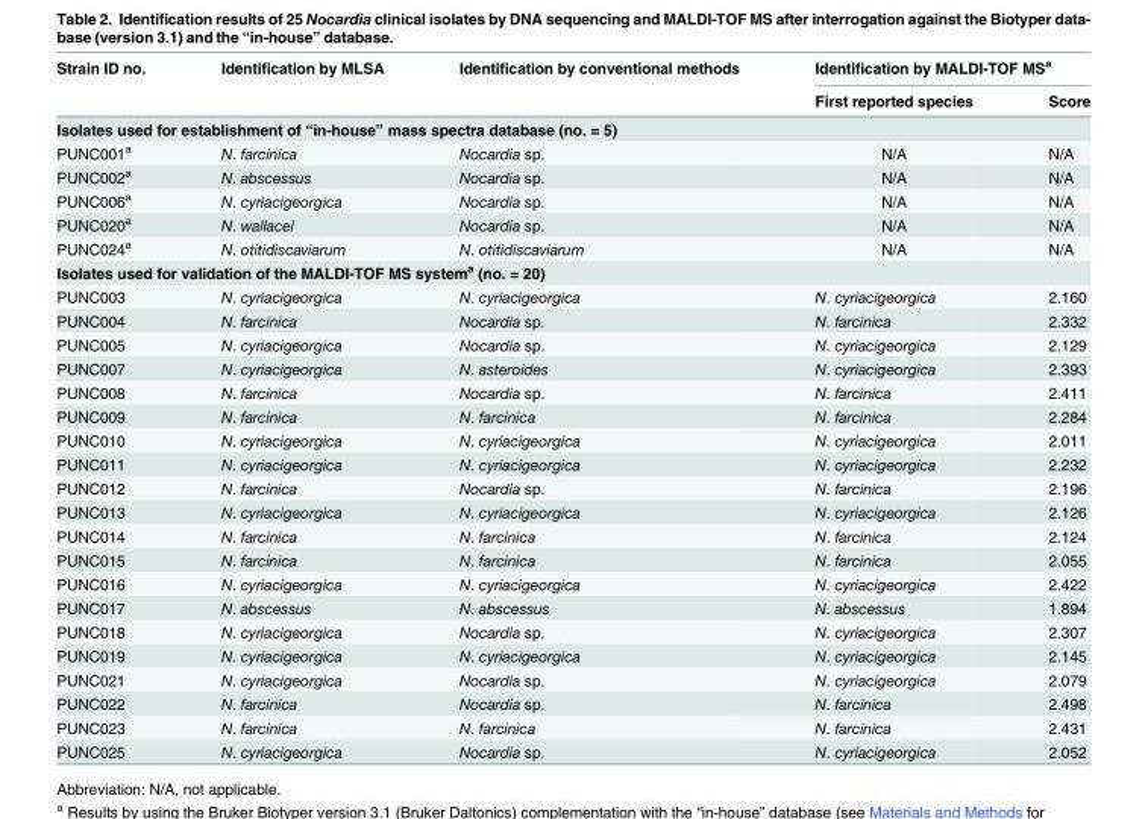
<table><thead><tr><td rowspan="2">Strain ID no.</td><td rowspan="2">Identification by MLSA</td><td rowspan="2">Identification by conventional methods</td><td colspan="2">Identification by MALDI-TOF MS<sup>a</sup></td></tr><tr><td>First reported species</td><td>Score</td></tr></thead><tbody><tr><td colspan="5">Isolates used for establishment of “in-house” mass spectra database (no. = 5)</td></tr><tr><td>PUNC001<sup>a</sup></td><td>N. farcinica</td><td>Nocardia sp.</td><td>N/A</td><td>N/A</td></tr><tr><td>PUNC002<sup>a</sup></td><td>N. abscessus</td><td>Nocardia sp.</td><td>N/A</td><td>N/A</td></tr><tr><td>PUNC006<sup>a</sup></td><td>N. cyriacigeorgica</td><td>Nocardia sp.</td><td>N/A</td><td>N/A</td></tr><tr><td>PUNC020<sup>a</sup></td><td>N. wallacei</td><td>Nocardia sp.</td><td>N/A</td><td>N/A</td></tr><tr><td>PUNC024<sup>a</sup></td><td>N. otitidiscaviarum</td><td>N. otitidiscaviarum</td><td>N/A</td><td>N/A</td></tr><tr><td colspan="5">Isolates used for validation of the MALDI-TOF MS system<sup>a</sup> (no. = 20)</td></tr><tr><td>PUNC003</td><td>N. cyriacigeorgica</td><td>N. cyriacigeorgica</td><td>N. cyriacigeorgica</td><td>2.160</td></tr><tr><td>PUNC004</td><td>N. farcinica</td><td>Nocardia sp.</td><td>N. farcinica</td><td>2.332</td></tr><tr><td>PUNC005</td><td>N. cyriacigeorgica</td><td>Nocardia sp.</td><td>N. cyriacigeorgica</td><td>2.129</td></tr><tr><td>PUNC007</td><td>N. cyriacigeorgica</td><td>N. asteroides</td><td>N. cyriacigeorgica</td><td>2.393</td></tr><tr><td>PUNC008</td><td>N. farcinica</td><td>Nocardia sp.</td><td>N. farcinica</td><td>2.411</td></tr><tr><td>PUNC009</td><td>N. farcinica</td><td>N. farcinica</td><td>N. farcinica</td><td>2.284</td></tr><tr><td>PUNC010</td><td>N. cyriacigeorgica</td><td>N. cyriacigeorgica</td><td>N. cyriacigeorgica</td><td>2.011</td></tr><tr><td>PUNC011</td><td>N. cyriacigeorgica</td><td>N. cyriacigeorgica</td><td>N. cyriacigeorgica</td><td>2.232</td></tr><tr><td>PUNC012</td><td>N. farcinica</td><td>Nocardia sp.</td><td>N. farcinica</td><td>2.196</td></tr><tr><td>PUNC013</td><td>N. cyriacigeorgica</td><td>N. cyriacigeorgica</td><td>N. cyriacigeorgica</td><td>2.126</td></tr><tr><td>PUNC014</td><td>N. farcinica</td><td>N. farcinica</td><td>N. farcinica</td><td>2.124</td></tr><tr><td>PUNC015</td><td>N. farcinica</td><td>N. farcinica</td><td>N. farcinica</td><td>2.055</td></tr><tr><td>PUNC016</td><td>N. cyriacigeorgica</td><td>N. cyriacigeorgica</td><td>N. cyriacigeorgica</td><td>2.422</td></tr><tr><td>PUNC017</td><td>N. abscessus</td><td>N. abscessus</td><td>N. abscessus</td><td>1.894</td></tr><tr><td>PUNC018</td><td>N. cyriacigeorgica</td><td>Nocardia sp.</td><td>N. cyriacigeorgica</td><td>2.307</td></tr><tr><td>PUNC019</td><td>N. cyriacigeorgica</td><td>N. cyriacigeorgica</td><td>N. cyriacigeorgica</td><td>2.145</td></tr><tr><td>PUNC021</td><td>N. cyriacigeorgica</td><td>Nocardia sp.</td><td>N. cyriacigeorgica</td><td>2.079</td></tr><tr><td>PUNC022</td><td>N. farcinica</td><td>Nocardia sp.</td><td>N. farcinica</td><td>2.498</td></tr><tr><td>PUNC023</td><td>N. farcinica</td><td>N. farcinica</td><td>N. farcinica</td><td>2.431</td></tr><tr><td>PUNC025</td><td>N. cyriacigeorgica</td><td>Nocardia sp.</td><td>N. cyriacigeorgica</td><td>2.052</td></tr></tbody></table>